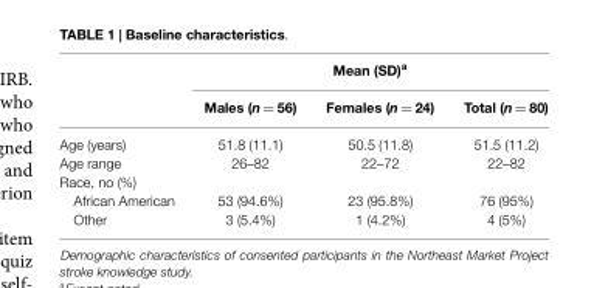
<table><thead><tr><td rowspan="2"></td><td colspan="3">Mean (SD)<sup>a</sup></td></tr><tr><td>Males (n = 56)</td><td>Females (n = 24)</td><td>Total (n = 80)</td></tr></thead><tbody><tr><td>Age (years)</td><td>51.8 (11.1)</td><td>50.5 (11.8)</td><td>51.5 (11.2)</td></tr><tr><td>Age range</td><td>26–82</td><td>22–72</td><td>22–82</td></tr><tr><td colspan="4">Race, no (%)</td></tr><tr><td>African American</td><td>53 (94.6%)</td><td>23 (95.8%)</td><td>76 (95%)</td></tr><tr><td>Other</td><td>3 (5.4%)</td><td>1 (4.2%)</td><td>4 (5%)</td></tr></tbody></table>